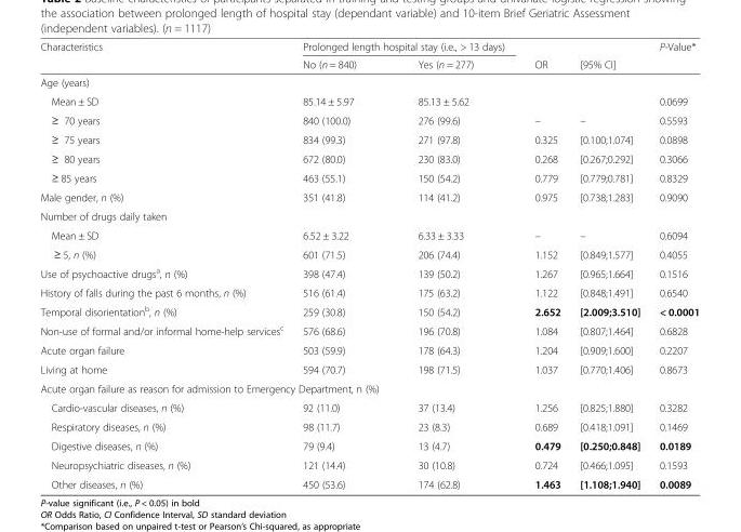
<table><thead><tr><td rowspan="2">Characteristics</td><td colspan="2">Prolonged length hospital stay (i.e., &gt; 13 days)</td><td rowspan="2">OR</td><td rowspan="2">[95% CI]</td><td rowspan="2">P-Value*</td></tr><tr><td>No (n = 840)</td><td>Yes (n = 277)</td></tr></thead><tbody><tr><td colspan="6">Age (years)</td></tr><tr><td>Mean ± SD</td><td>85.14 ± 5.97</td><td>85.13 ± 5.62</td><td></td><td></td><td>0.0699</td></tr><tr><td>≥ 70 years</td><td>840 (100.0)</td><td>276 (99.6)</td><td>–</td><td>–</td><td>0.5593</td></tr><tr><td>≥ 75 years</td><td>834 (99.3)</td><td>271 (97.8)</td><td>0.325</td><td>[0.100;1.074]</td><td>0.0898</td></tr><tr><td>≥ 80 years</td><td>672 (80.0)</td><td>230 (83.0)</td><td>0.268</td><td>[0.267;0.292]</td><td>0.3066</td></tr><tr><td>≥ 85 years</td><td>463 (55.1)</td><td>150 (54.2)</td><td>0.779</td><td>[0.779;0.781]</td><td>0.8329</td></tr><tr><td>Male gender, n (%)</td><td>351 (41.8)</td><td>114 (41.2)</td><td>0.975</td><td>[0.738;1.283]</td><td>0.9090</td></tr><tr><td colspan="6">Number of drugs daily taken</td></tr><tr><td>Mean ± SD</td><td>6.52 ± 3.22</td><td>6.33 ± 3.33</td><td>–</td><td>–</td><td>0.6094</td></tr><tr><td>≥ 5, n (%)</td><td>601 (71.5)</td><td>206 (74.4)</td><td>1.152</td><td>[0.849;1.577]</td><td>0.4055</td></tr><tr><td>Use of psychoactive drugs<sup>a</sup>, n (%)</td><td>398 (47.4)</td><td>139 (50.2)</td><td>1.267</td><td>[0.965;1.664]</td><td>0.1516</td></tr><tr><td>History of falls during the past 6 months, n (%)</td><td>516 (61.4)</td><td>175 (63.2)</td><td>1.122</td><td>[0.848;1.491]</td><td>0.6540</td></tr><tr><td>Temporal disorientation<sup>b</sup>, n (%)</td><td>259 (30.8)</td><td>150 (54.2)</td><td>2.652</td><td>[2.009;3.510]</td><td>&lt; 0.0001</td></tr><tr><td>Non-use of formal and/or informal home-help services<sup>c</sup></td><td>576 (68.6)</td><td>196 (70.8)</td><td>1.084</td><td>[0.807;1.464]</td><td>0.6828</td></tr><tr><td>Acute organ failure</td><td>503 (59.9)</td><td>178 (64.3)</td><td>1.204</td><td>[0.909;1.600]</td><td>0.2207</td></tr><tr><td>Living at home</td><td>594 (70.7)</td><td>198 (71.5)</td><td>1.037</td><td>[0.770;1.406]</td><td>0.8673</td></tr><tr><td colspan="6">Acute organ failure as reason for admission to Emergency Department, n (%)</td></tr><tr><td>Cardio-vascular diseases, n (%)</td><td>92 (11.0)</td><td>37 (13.4)</td><td>1.256</td><td>[0.825;1.880]</td><td>0.3282</td></tr><tr><td>Respiratory diseases, n (%)</td><td>98 (11.7)</td><td>23 (8.3)</td><td>0.689</td><td>[0.418;1.091]</td><td>0.1469</td></tr><tr><td>Digestive diseases, n (%)</td><td>79 (9.4)</td><td>13 (4.7)</td><td>0.479</td><td>[0.250;0.848]</td><td>0.0189</td></tr><tr><td>Neuropsychiatric diseases, n (%)</td><td>121 (14.4)</td><td>30 (10.8)</td><td>0.724</td><td>[0.466;1.095]</td><td>0.1593</td></tr><tr><td>Other diseases, n (%)</td><td>450 (53.6)</td><td>174 (62.8)</td><td>1.463</td><td>[1.108;1.940]</td><td>0.0089</td></tr></tbody></table>